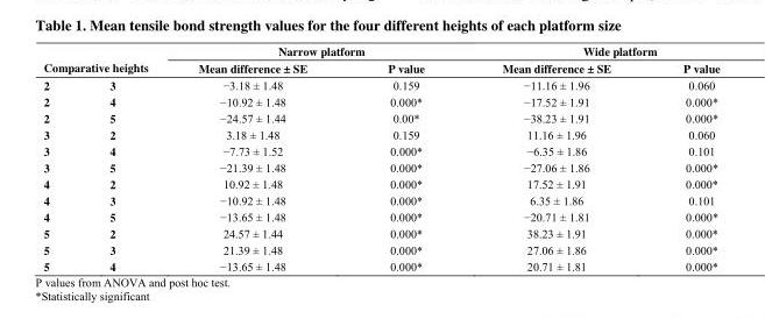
<table><thead><tr><td></td><td></td><td colspan="2">Narrow platform</td><td colspan="2">Wide platform</td></tr><tr><td colspan="2">Comparative heights</td><td>Mean difference ± SE</td><td>P value</td><td>Mean difference ± SE</td><td>P value</td></tr></thead><tbody><tr><td>2</td><td>3</td><td>−3.18 ± 1.48</td><td>0.159</td><td>−11.16 ± 1.96</td><td>0.060</td></tr><tr><td>2</td><td>4</td><td>−10.92 ± 1.48</td><td>0.000*</td><td>−17.52 ± 1.91</td><td>0.000*</td></tr><tr><td>2</td><td>5</td><td>−24.57 ± 1.44</td><td>0.00*</td><td>−38.23 ± 1.91</td><td>0.000*</td></tr><tr><td>3</td><td>2</td><td>3.18 ± 1.48</td><td>0.159</td><td>11.16 ± 1.96</td><td>0.060</td></tr><tr><td>3</td><td>4</td><td>−7.73 ± 1.52</td><td>0.000*</td><td>−6.35 ± 1.86</td><td>0.101</td></tr><tr><td>3</td><td>5</td><td>−21.39 ± 1.48</td><td>0.000*</td><td>−27.06 ± 1.86</td><td>0.000*</td></tr><tr><td>4</td><td>2</td><td>10.92 ± 1.48</td><td>0.000*</td><td>17.52 ± 1.91</td><td>0.000*</td></tr><tr><td>4</td><td>3</td><td>−10.92 ± 1.48</td><td>0.000*</td><td>6.35 ± 1.86</td><td>0.101</td></tr><tr><td>4</td><td>5</td><td>−13.65 ± 1.48</td><td>0.000*</td><td>−20.71 ± 1.81</td><td>0.000*</td></tr><tr><td>5</td><td>2</td><td>24.57 ± 1.44</td><td>0.000*</td><td>38.23 ± 1.91</td><td>0.000*</td></tr><tr><td>5</td><td>3</td><td>21.39 ± 1.48</td><td>0.000*</td><td>27.06 ± 1.86</td><td>0.000*</td></tr><tr><td>5</td><td>4</td><td>−13.65 ± 1.48</td><td>0.000*</td><td>20.71 ± 1.81</td><td>0.000*</td></tr></tbody></table>